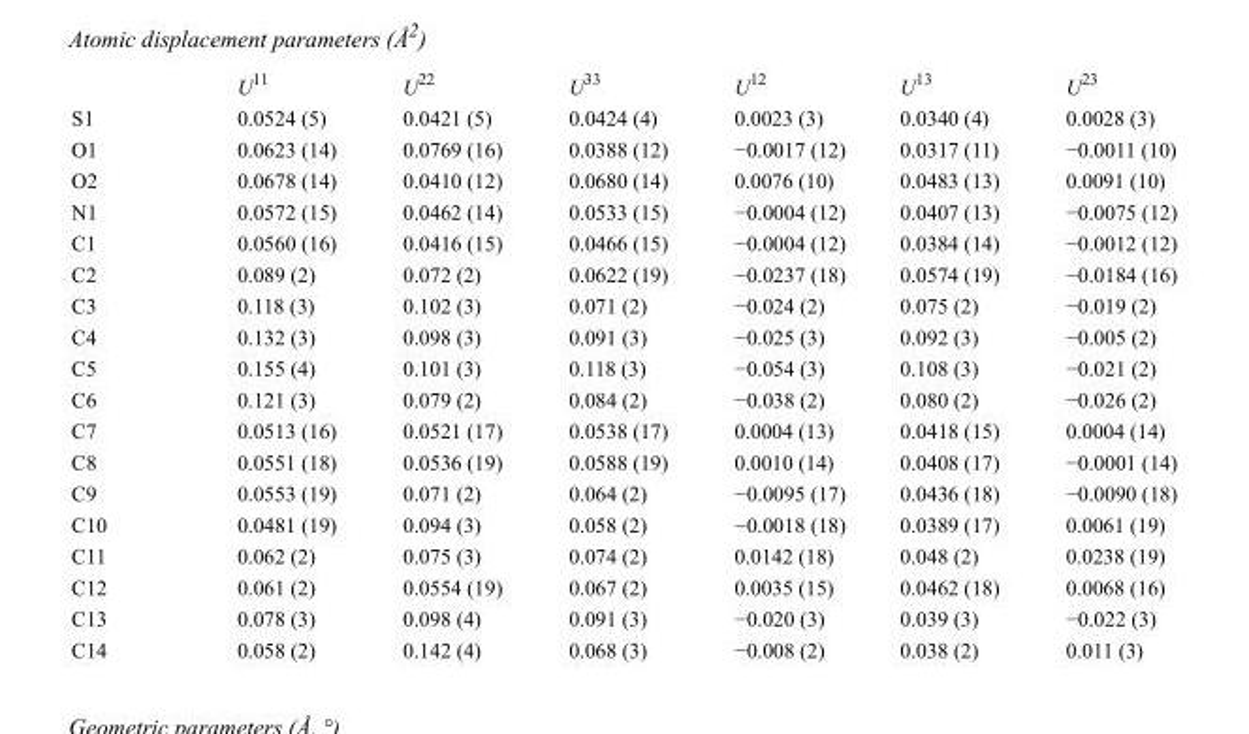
<table><thead><tr><td></td><td>U<sup>11</sup></td><td>U<sup>22</sup></td><td>U<sup>33</sup></td><td>U<sup>12</sup></td><td>U<sup>13</sup></td><td>U<sup>23</sup></td></tr></thead><tbody><tr><td>S1</td><td>0.0524 (5)</td><td>0.0421 (5)</td><td>0.0424 (4)</td><td>0.0023 (3)</td><td>0.0340 (4)</td><td>0.0028 (3)</td></tr><tr><td>O1</td><td>0.0623 (14)</td><td>0.0769 (16)</td><td>0.0388 (12)</td><td>−0.0017 (12)</td><td>0.0317 (11)</td><td>−0.0011 (10)</td></tr><tr><td>O2</td><td>0.0678 (14)</td><td>0.0410 (12)</td><td>0.0680 (14)</td><td>0.0076 (10)</td><td>0.0483 (13)</td><td>0.0091 (10)</td></tr><tr><td>N1</td><td>0.0572 (15)</td><td>0.0462 (14)</td><td>0.0533 (15)</td><td>−0.0004 (12)</td><td>0.0407 (13)</td><td>−0.0075 (12)</td></tr><tr><td>C1</td><td>0.0560 (16)</td><td>0.0416 (15)</td><td>0.0466 (15)</td><td>−0.0004 (12)</td><td>0.0384 (14)</td><td>−0.0012 (12)</td></tr><tr><td>C2</td><td>0.089 (2)</td><td>0.072 (2)</td><td>0.0622 (19)</td><td>−0.0237 (18)</td><td>0.0574 (19)</td><td>−0.0184 (16)</td></tr><tr><td>C3</td><td>0.118 (3)</td><td>0.102 (3)</td><td>0.071 (2)</td><td>−0.024 (2)</td><td>0.075 (2)</td><td>−0.019 (2)</td></tr><tr><td>C4</td><td>0.132 (3)</td><td>0.098 (3)</td><td>0.091 (3)</td><td>−0.025 (3)</td><td>0.092 (3)</td><td>−0.005 (2)</td></tr><tr><td>C5</td><td>0.155 (4)</td><td>0.101 (3)</td><td>0.118 (3)</td><td>−0.054 (3)</td><td>0.108 (3)</td><td>−0.021 (2)</td></tr><tr><td>C6</td><td>0.121 (3)</td><td>0.079 (2)</td><td>0.084 (2)</td><td>−0.038 (2)</td><td>0.080 (2)</td><td>−0.026 (2)</td></tr><tr><td>C7</td><td>0.0513 (16)</td><td>0.0521 (17)</td><td>0.0538 (17)</td><td>0.0004 (13)</td><td>0.0418 (15)</td><td>0.0004 (14)</td></tr><tr><td>C8</td><td>0.0551 (18)</td><td>0.0536 (19)</td><td>0.0588 (19)</td><td>0.0010 (14)</td><td>0.0408 (17)</td><td>−0.0001 (14)</td></tr><tr><td>C9</td><td>0.0553 (19)</td><td>0.071 (2)</td><td>0.064 (2)</td><td>−0.0095 (17)</td><td>0.0436 (18)</td><td>−0.0090 (18)</td></tr><tr><td>C10</td><td>0.0481 (19)</td><td>0.094 (3)</td><td>0.058 (2)</td><td>−0.0018 (18)</td><td>0.0389 (17)</td><td>0.0061 (19)</td></tr><tr><td>C11</td><td>0.062 (2)</td><td>0.075 (3)</td><td>0.074 (2)</td><td>0.0142 (18)</td><td>0.048 (2)</td><td>0.0238 (19)</td></tr><tr><td>C12</td><td>0.061 (2)</td><td>0.0554 (19)</td><td>0.067 (2)</td><td>0.0035 (15)</td><td>0.0462 (18)</td><td>0.0068 (16)</td></tr><tr><td>C13</td><td>0.078 (3)</td><td>0.098 (4)</td><td>0.091 (3)</td><td>−0.020 (3)</td><td>0.039 (3)</td><td>−0.022 (3)</td></tr><tr><td>C14</td><td>0.058 (2)</td><td>0.142 (4)</td><td>0.068 (3)</td><td>−0.008 (2)</td><td>0.038 (2)</td><td>0.011 (3)</td></tr></tbody></table>